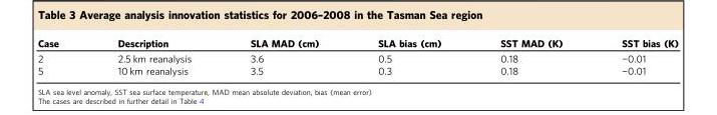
<table><thead><tr><td>Case</td><td>Description</td><td>SLA MAD (cm)</td><td>SLA bias (cm)</td><td>SST MAD (K)</td><td>SST bias (K)</td></tr></thead><tbody><tr><td>2</td><td>2.5 km reanalysis</td><td>3.6</td><td>0.5</td><td>0.18</td><td>−0.01</td></tr><tr><td>5</td><td>10 km reanalysis</td><td>3.5</td><td>0.3</td><td>0.18</td><td>−0.01</td></tr></tbody></table>